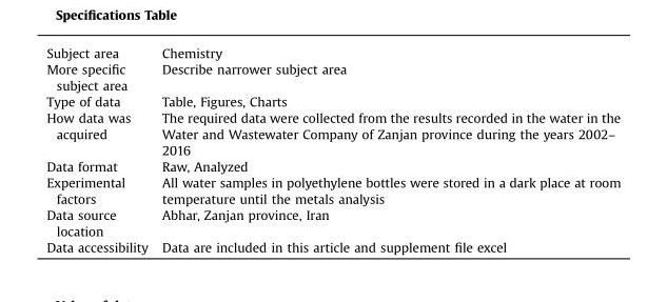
<table><tbody><tr><td>Subject area</td><td>Chemistry</td></tr><tr><td>More specific subject area</td><td>Describe narrower subject area</td></tr><tr><td>Type of data</td><td>Table, Figures, Charts</td></tr><tr><td>How data was acquired</td><td>The required data were collected from the results recorded in the water in the Water and Wastewater Company of Zanjan province during the years 2002– 2016</td></tr><tr><td>Data format</td><td>Raw, Analyzed</td></tr><tr><td>Experimental factors</td><td>All water samples in polyethylene bottles were stored in a dark place at room temperature until the metals analysis</td></tr><tr><td>Data source location</td><td>Abhar, Zanjan province, Iran</td></tr><tr><td>Data accessibility</td><td>Data are included in this article and supplement file excel</td></tr></tbody></table>